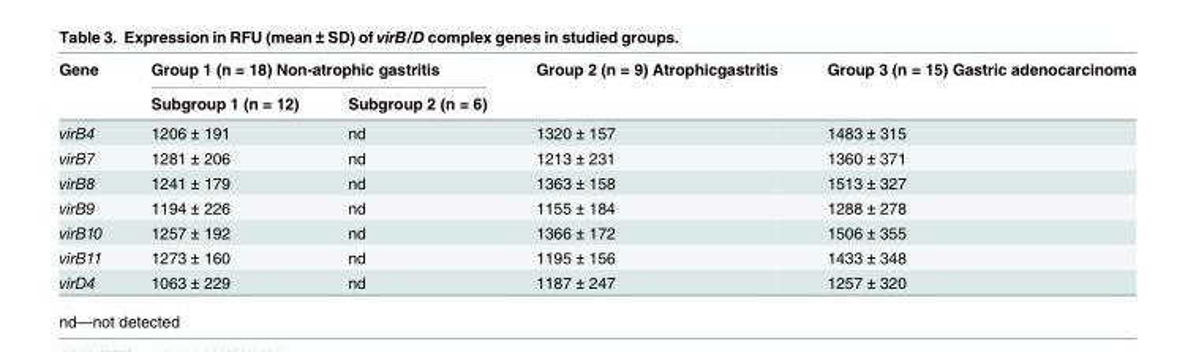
<table><thead><tr><td rowspan="2">Gene</td><td colspan="2">Group 1 (n = 18) Non-atrophic gastritis</td><td rowspan="2">Group 2 (n = 9) Atrophicgastritis</td><td rowspan="2">Group 3 (n = 15) Gastric adenocarcinoma</td></tr><tr><td>Subgroup 1 (n = 12)</td><td>Subgroup 2 (n = 6)</td></tr></thead><tbody><tr><td>virB4</td><td>1206 ± 191</td><td>nd</td><td>1320 ± 157</td><td>1483 ± 315</td></tr><tr><td>virB7</td><td>1281 ± 206</td><td>nd</td><td>1213 ± 231</td><td>1360 ± 371</td></tr><tr><td>virB8</td><td>1241 ± 179</td><td>nd</td><td>1363 ± 158</td><td>1513 ± 327</td></tr><tr><td>virB9</td><td>1194 ± 226</td><td>nd</td><td>1155 ± 184</td><td>1288 ± 278</td></tr><tr><td>virB10</td><td>1257 ± 192</td><td>nd</td><td>1366 ± 172</td><td>1506 ± 355</td></tr><tr><td>virB11</td><td>1273 ± 160</td><td>nd</td><td>1195 ± 156</td><td>1433 ± 348</td></tr><tr><td>virD4</td><td>1063 ± 229</td><td>nd</td><td>1187 ± 247</td><td>1257 ± 320</td></tr></tbody></table>